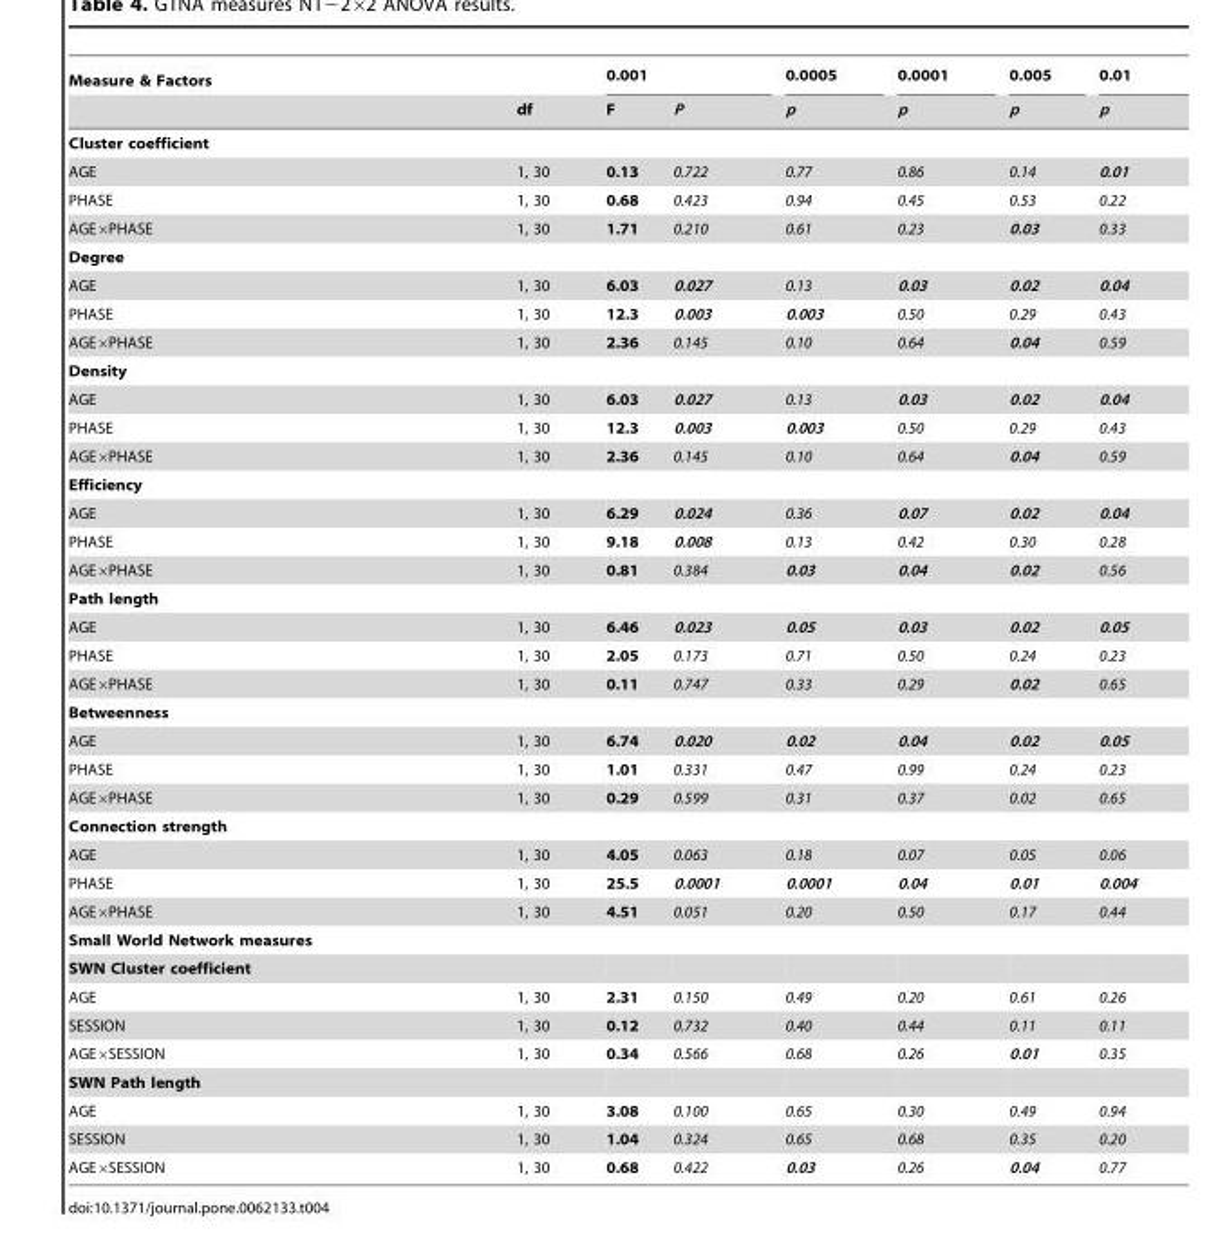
<table><thead><tr><td rowspan="2">Measure &amp; Factors</td><td rowspan="2">df</td><td colspan="2">0.001</td><td rowspan="2">0.0005 p</td><td rowspan="2">0.0001 p</td><td rowspan="2">0.005 p</td><td rowspan="2">0.01 p</td></tr><tr><td>F</td><td>P</td></tr></thead><tbody><tr><td colspan="8">Cluster coefficient</td></tr><tr><td>AGE</td><td>1, 30</td><td>0.13</td><td>0.722</td><td>0.77</td><td>0.86</td><td>0.14</td><td>0.01</td></tr><tr><td>PHASE</td><td>1, 30</td><td>0.68</td><td>0.423</td><td>0.94</td><td>0.45</td><td>0.53</td><td>0.22</td></tr><tr><td>AGE×PHASE</td><td>1, 30</td><td>1.71</td><td>0.210</td><td>0.61</td><td>0.23</td><td>0.03</td><td>0.33</td></tr><tr><td colspan="8">Degree</td></tr><tr><td>AGE</td><td>1, 30</td><td>6.03</td><td>0.027</td><td>0.13</td><td>0.03</td><td>0.02</td><td>0.04</td></tr><tr><td>PHASE</td><td>1, 30</td><td>12.3</td><td>0.003</td><td>0.003</td><td>0.50</td><td>0.29</td><td>0.43</td></tr><tr><td>AGE×PHASE</td><td>1, 30</td><td>2.36</td><td>0.145</td><td>0.10</td><td>0.64</td><td>0.04</td><td>0.59</td></tr><tr><td colspan="8">Density</td></tr><tr><td>AGE</td><td>1, 30</td><td>6.03</td><td>0.027</td><td>0.13</td><td>0.03</td><td>0.02</td><td>0.04</td></tr><tr><td>PHASE</td><td>1, 30</td><td>12.3</td><td>0.003</td><td>0.003</td><td>0.50</td><td>0.29</td><td>0.43</td></tr><tr><td>AGE×PHASE</td><td>1, 30</td><td>2.36</td><td>0.145</td><td>0.10</td><td>0.64</td><td>0.04</td><td>0.59</td></tr><tr><td colspan="8">Efficiency</td></tr><tr><td>AGE</td><td>1, 30</td><td>6.29</td><td>0.024</td><td>0.36</td><td>0.07</td><td>0.02</td><td>0.04</td></tr><tr><td>PHASE</td><td>1, 30</td><td>9.18</td><td>0.008</td><td>0.13</td><td>0.42</td><td>0.30</td><td>0.28</td></tr><tr><td>AGE×PHASE</td><td>1, 30</td><td>0.81</td><td>0.384</td><td>0.03</td><td>0.04</td><td>0.02</td><td>0.56</td></tr><tr><td colspan="8">Path length</td></tr><tr><td>AGE</td><td>1, 30</td><td>6.46</td><td>0.023</td><td>0.05</td><td>0.03</td><td>0.02</td><td>0.05</td></tr><tr><td>PHASE</td><td>1, 30</td><td>2.05</td><td>0.173</td><td>0.71</td><td>0.50</td><td>0.24</td><td>0.23</td></tr><tr><td>AGE×PHASE</td><td>1, 30</td><td>0.11</td><td>0.747</td><td>0.33</td><td>0.29</td><td>0.02</td><td>0.65</td></tr><tr><td colspan="8">Betweenness</td></tr><tr><td>AGE</td><td>1, 30</td><td>6.74</td><td>0.020</td><td>0.02</td><td>0.04</td><td>0.02</td><td>0.05</td></tr><tr><td>PHASE</td><td>1, 30</td><td>1.01</td><td>0.331</td><td>0.47</td><td>0.99</td><td>0.24</td><td>0.23</td></tr><tr><td>AGE×PHASE</td><td>1, 30</td><td>0.29</td><td>0.599</td><td>0.31</td><td>0.37</td><td>0.02</td><td>0.65</td></tr><tr><td colspan="8">Connection strength</td></tr><tr><td>AGE</td><td>1, 30</td><td>4.05</td><td>0.063</td><td>0.18</td><td>0.07</td><td>0.05</td><td>0.06</td></tr><tr><td>PHASE</td><td>1, 30</td><td>25.5</td><td>0.0001</td><td>0.0001</td><td>0.04</td><td>0.01</td><td>0.004</td></tr><tr><td>AGE×PHASE</td><td>1, 30</td><td>4.51</td><td>0.051</td><td>0.20</td><td>0.50</td><td>0.17</td><td>0.44</td></tr><tr><td colspan="8">Small World Network measures</td></tr><tr><td colspan="8">SWN Cluster coefficient</td></tr><tr><td>AGE</td><td>1, 30</td><td>2.31</td><td>0.150</td><td>0.49</td><td>0.20</td><td>0.61</td><td>0.26</td></tr><tr><td>SESSION</td><td>1, 30</td><td>0.12</td><td>0.732</td><td>0.40</td><td>0.44</td><td>0.11</td><td>0.11</td></tr><tr><td>AGE×SESSION</td><td>1, 30</td><td>0.34</td><td>0.566</td><td>0.68</td><td>0.26</td><td>0.01</td><td>0.35</td></tr><tr><td colspan="8">SWN Path length</td></tr><tr><td>AGE</td><td>1, 30</td><td>3.08</td><td>0.100</td><td>0.65</td><td>0.30</td><td>0.49</td><td>0.94</td></tr><tr><td>SESSION</td><td>1, 30</td><td>1.04</td><td>0.324</td><td>0.65</td><td>0.68</td><td>0.35</td><td>0.20</td></tr><tr><td>AGE×SESSION</td><td>1, 30</td><td>0.68</td><td>0.422</td><td>0.03</td><td>0.26</td><td>0.04</td><td>0.77</td></tr></tbody></table>